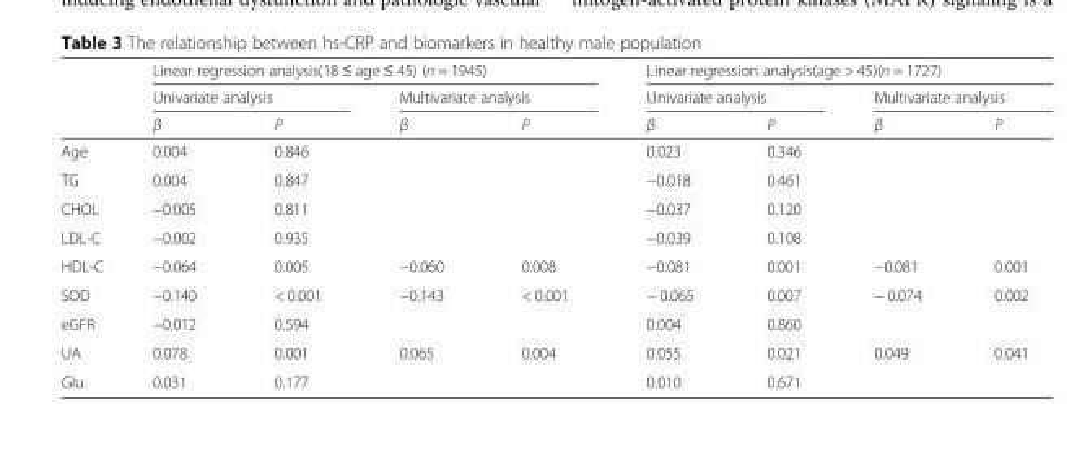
<table><thead><tr><td rowspan="3"></td><td colspan="4">Linear regression analysis(18 ≤ age ≤ 45) (n = 1945)</td><td colspan="4">Linear regression analysis(age &gt; 45)(n = 1727)</td></tr><tr><td colspan="2">Univariate analysis</td><td colspan="2">Multivariate analysis</td><td colspan="2">Univariate analysis</td><td colspan="2">Multivariate analysis</td></tr><tr><td>β</td><td>P</td><td>β</td><td>P</td><td>β</td><td>P</td><td>β</td><td>P</td></tr></thead><tbody><tr><td>Age</td><td>0.004</td><td>0.846</td><td></td><td></td><td>0.023</td><td>0.346</td><td></td><td></td></tr><tr><td>TG</td><td>0.004</td><td>0.847</td><td></td><td></td><td>−0.018</td><td>0.461</td><td></td><td></td></tr><tr><td>CHOL</td><td>−0.005</td><td>0.811</td><td></td><td></td><td>−0.037</td><td>0.120</td><td></td><td></td></tr><tr><td>LDL-C</td><td>−0.002</td><td>0.935</td><td></td><td></td><td>−0.039</td><td>0.108</td><td></td><td></td></tr><tr><td>HDL-C</td><td>−0.064</td><td>0.005</td><td>−0.060</td><td>0.008</td><td>−0.081</td><td>0.001</td><td>−0.081</td><td>0.001</td></tr><tr><td>SOD</td><td>−0.140</td><td>&lt; 0.001</td><td>−0.143</td><td>&lt; 0.001</td><td>− 0.065</td><td>0.007</td><td>− 0.074</td><td>0.002</td></tr><tr><td>eGFR</td><td>−0.012</td><td>0.594</td><td></td><td></td><td>0.004</td><td>0.860</td><td></td><td></td></tr><tr><td>UA</td><td>0.078</td><td>0.001</td><td>0.065</td><td>0.004</td><td>0.055</td><td>0.021</td><td>0.049</td><td>0.041</td></tr><tr><td>Glu</td><td>0.031</td><td>0.177</td><td></td><td></td><td>0.010</td><td>0.671</td><td></td><td></td></tr></tbody></table>